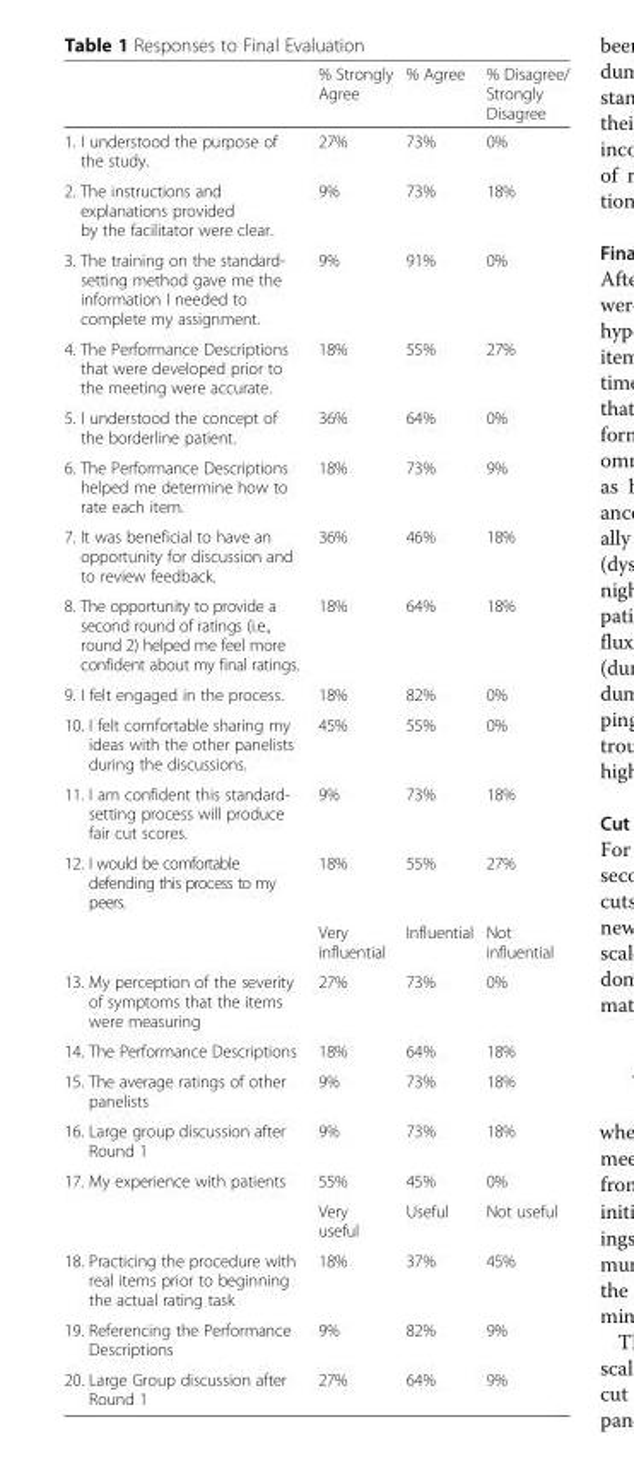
<table><thead><tr><td></td><td>% Strongly Agree</td><td>% Agree</td><td>% Disagree/ Strongly Disagree</td></tr></thead><tbody><tr><td>1. I understood the purpose of the study.</td><td>27%</td><td>73%</td><td>0%</td></tr><tr><td>2. The instructions and explanations provided by the facilitator were clear.</td><td>9%</td><td>73%</td><td>18%</td></tr><tr><td>3. The training on the standard- setting method gave me the information I needed to complete my assignment.</td><td>9%</td><td>91%</td><td>0%</td></tr><tr><td>4. The Performance Descriptions that were developed prior to the meeting were accurate.</td><td>18%</td><td>55%</td><td>27%</td></tr><tr><td>5. I understood the concept of the borderline patient.</td><td>36%</td><td>64%</td><td>0%</td></tr><tr><td>6. The Performance Descriptions helped me determine how to rate each item.</td><td>18%</td><td>73%</td><td>9%</td></tr><tr><td>7. It was beneficial to have an opportunity for discussion and to review feedback.</td><td>36%</td><td>46%</td><td>18%</td></tr><tr><td>8. The opportunity to provide a second round of ratings (i.e., round 2) helped me feel more confident about my final ratings.</td><td>18%</td><td>64%</td><td>18%</td></tr><tr><td>9. I felt engaged in the process.</td><td>18%</td><td>82%</td><td>0%</td></tr><tr><td>10. I felt comfortable sharing my ideas with the other panelists during the discussions.</td><td>45%</td><td>55%</td><td>0%</td></tr><tr><td>11. I am confident this standard- setting process will produce fair cut scores.</td><td>9%</td><td>73%</td><td>18%</td></tr><tr><td rowspan="2">12. I would be comfortable defending this process to my peers.</td><td>18%</td><td>55%</td><td>27%</td></tr><tr><td>Very influential</td><td>Influential</td><td>Not influential</td></tr><tr><td>13. My perception of the severity of symptoms that the items were measuring</td><td>27%</td><td>73%</td><td>0%</td></tr><tr><td>14. The Performance Descriptions</td><td>18%</td><td>64%</td><td>18%</td></tr><tr><td>15. The average ratings of other panelists</td><td>9%</td><td>73%</td><td>18%</td></tr><tr><td>16. Large group discussion after Round 1</td><td>9%</td><td>73%</td><td>18%</td></tr><tr><td rowspan="2">17. My experience with patients</td><td>55%</td><td>45%</td><td>0%</td></tr><tr><td>Very useful</td><td>Useful</td><td>Not useful</td></tr><tr><td>18. Practicing the procedure with real items prior to beginning the actual rating task</td><td>18%</td><td>37%</td><td>45%</td></tr><tr><td>19. Referencing the Performance Descriptions</td><td>9%</td><td>82%</td><td>9%</td></tr><tr><td>20. Large Group discussion after Round 1</td><td>27%</td><td>64%</td><td>9%</td></tr></tbody></table>